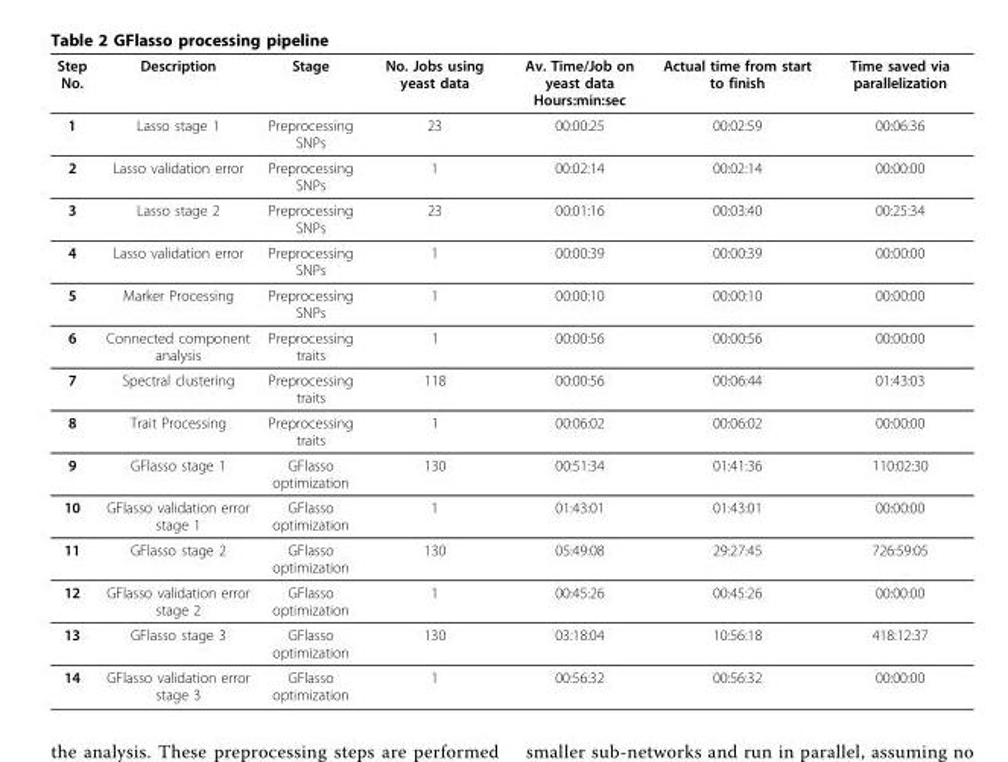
<table><thead><tr><td>Step No.</td><td>Description</td><td>Stage</td><td>No. Jobs using yeast data</td><td>Av. Time/Job on yeast data Hours:min:sec</td><td>Actual time from start to finish</td><td>Time saved via parallelization</td></tr></thead><tbody><tr><td>1</td><td>Lasso stage 1</td><td>Preprocessing SNPs</td><td>23</td><td>00:00:25</td><td>00:02:59</td><td>00:06:36</td></tr><tr><td>2</td><td>Lasso validation error</td><td>Preprocessing SNPs</td><td>1</td><td>00:02:14</td><td>00:02:14</td><td>00:00:00</td></tr><tr><td>3</td><td>Lasso stage 2</td><td>Preprocessing SNPs</td><td>23</td><td>00:01:16</td><td>00:03:40</td><td>00:25:34</td></tr><tr><td>4</td><td>Lasso validation error</td><td>Preprocessing SNPs</td><td>1</td><td>00:00:39</td><td>00:00:39</td><td>00:00:00</td></tr><tr><td>5</td><td>Marker Processing</td><td>Preprocessing SNPs</td><td>1</td><td>00:00:10</td><td>00:00:10</td><td>00:00:00</td></tr><tr><td>6</td><td>Connected component analysis</td><td>Preprocessing traits</td><td>1</td><td>00:00:56</td><td>00:00:56</td><td>00:00:00</td></tr><tr><td>7</td><td>Spectral clustering</td><td>Preprocessing traits</td><td>118</td><td>00:00:56</td><td>00:06:44</td><td>01:43:03</td></tr><tr><td>8</td><td>Trait Processing</td><td>Preprocessing traits</td><td>1</td><td>00:06:02</td><td>00:06:02</td><td>00:00:00</td></tr><tr><td>9</td><td>GFlasso stage 1</td><td>GFlasso optimization</td><td>130</td><td>00:51:34</td><td>01:41:36</td><td>110:02:30</td></tr><tr><td>10</td><td>GFlasso validation error stage 1</td><td>GFlasso optimization</td><td>1</td><td>01:43:01</td><td>01:43:01</td><td>00:00:00</td></tr><tr><td>11</td><td>GFlasso stage 2</td><td>GFlasso optimization</td><td>130</td><td>05:49:08</td><td>29:27:45</td><td>726:59:05</td></tr><tr><td>12</td><td>GFlasso validation error stage 2</td><td>GFlasso optimization</td><td>1</td><td>00:45:26</td><td>00:45:26</td><td>00:00:00</td></tr><tr><td>13</td><td>GFlasso stage 3</td><td>GFlasso optimization</td><td>130</td><td>03:18:04</td><td>10:56:18</td><td>418:12:37</td></tr><tr><td>14</td><td>GFlasso validation error stage 3</td><td>GFlasso optimization</td><td>1</td><td>00:56:32</td><td>00:56:32</td><td>00:00:00</td></tr></tbody></table>